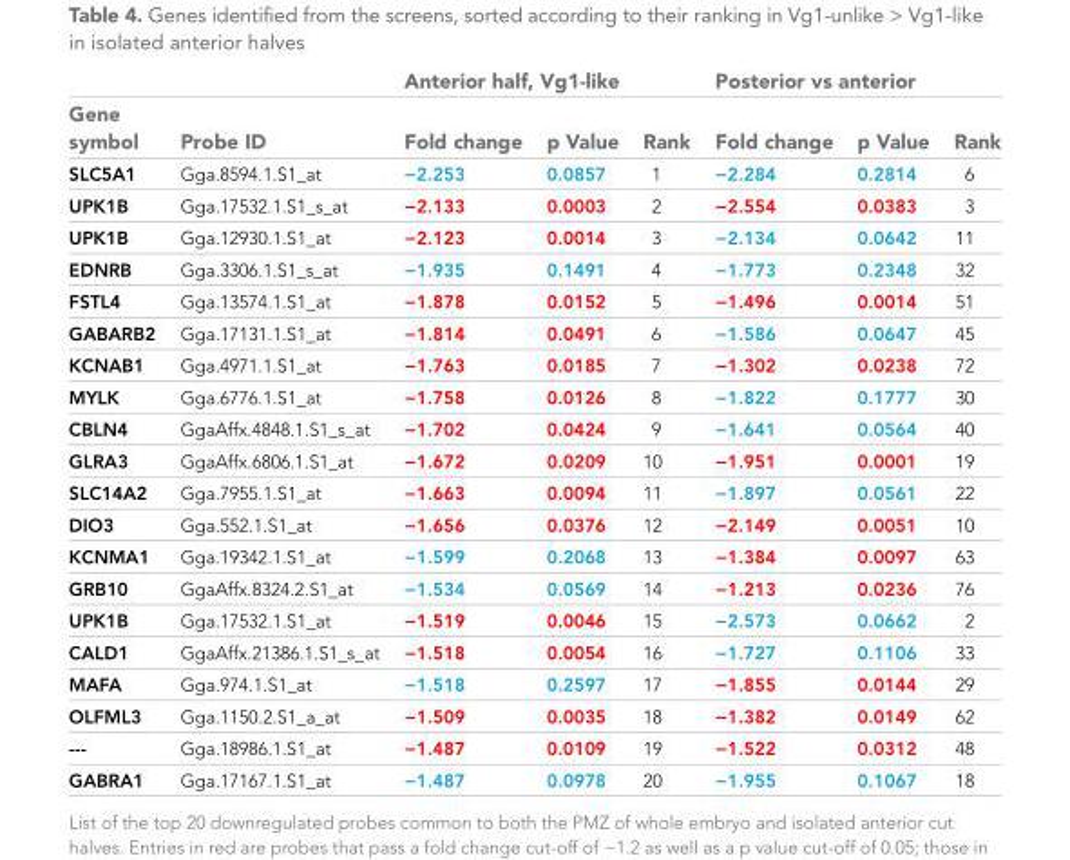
<table><thead><tr><td rowspan="2">Gene symbol</td><td rowspan="2">Probe ID</td><td colspan="3">Anterior half, Vg1-like</td><td colspan="3">Posterior vs anterior</td></tr><tr><td>Fold change</td><td>p Value</td><td>Rank</td><td>Fold change</td><td>p Value</td><td>Rank</td></tr></thead><tbody><tr><td>SLC5A1</td><td>Gga.8594.1.S1_at</td><td>−2.253</td><td>0.0857</td><td>1</td><td>−2.284</td><td>0.2814</td><td>6</td></tr><tr><td>UPK1B</td><td>Gga.17532.1.S1_s_at</td><td>−2.133</td><td>0.0003</td><td>2</td><td>−2.554</td><td>0.0383</td><td>3</td></tr><tr><td>UPK1B</td><td>Gga.12930.1.S1_at</td><td>−2.123</td><td>0.0014</td><td>3</td><td>−2.134</td><td>0.0642</td><td>11</td></tr><tr><td>EDNRB</td><td>Gga.3306.1.S1_s_at</td><td>−1.935</td><td>0.1491</td><td>4</td><td>−1.773</td><td>0.2348</td><td>32</td></tr><tr><td>FSTL4</td><td>Gga.13574.1.S1_at</td><td>−1.878</td><td>0.0152</td><td>5</td><td>−1.496</td><td>0.0014</td><td>51</td></tr><tr><td>GABARB2</td><td>Gga.17131.1.S1_at</td><td>−1.814</td><td>0.0491</td><td>6</td><td>−1.586</td><td>0.0647</td><td>45</td></tr><tr><td>KCNAB1</td><td>Gga.4971.1.S1_at</td><td>−1.763</td><td>0.0185</td><td>7</td><td>−1.302</td><td>0.0238</td><td>72</td></tr><tr><td>MYLK</td><td>Gga.6776.1.S1_at</td><td>−1.758</td><td>0.0126</td><td>8</td><td>−1.822</td><td>0.1777</td><td>30</td></tr><tr><td>CBLN4</td><td>GgaAffx.4848.1.S1_s_at</td><td>−1.702</td><td>0.0424</td><td>9</td><td>−1.641</td><td>0.0564</td><td>40</td></tr><tr><td>GLRA3</td><td>GgaAffx.6806.1.S1_at</td><td>−1.672</td><td>0.0209</td><td>10</td><td>−1.951</td><td>0.0001</td><td>19</td></tr><tr><td>SLC14A2</td><td>Gga.7955.1.S1_at</td><td>−1.663</td><td>0.0094</td><td>11</td><td>−1.897</td><td>0.0561</td><td>22</td></tr><tr><td>DIO3</td><td>Gga.552.1.S1_at</td><td>−1.656</td><td>0.0376</td><td>12</td><td>−2.149</td><td>0.0051</td><td>10</td></tr><tr><td>KCNMA1</td><td>Gga.19342.1.S1_at</td><td>−1.599</td><td>0.2068</td><td>13</td><td>−1.384</td><td>0.0097</td><td>63</td></tr><tr><td>GRB10</td><td>GgaAffx.8324.2.S1_at</td><td>−1.534</td><td>0.0569</td><td>14</td><td>−1.213</td><td>0.0236</td><td>76</td></tr><tr><td>UPK1B</td><td>Gga.17532.1.S1_at</td><td>−1.519</td><td>0.0046</td><td>15</td><td>−2.573</td><td>0.0662</td><td>2</td></tr><tr><td>CALD1</td><td>GgaAffx.21386.1.S1_s_at</td><td>−1.518</td><td>0.0054</td><td>16</td><td>−1.727</td><td>0.1106</td><td>33</td></tr><tr><td>MAFA</td><td>Gga.974.1.S1_at</td><td>−1.518</td><td>0.2597</td><td>17</td><td>−1.855</td><td>0.0144</td><td>29</td></tr><tr><td>OLFML3</td><td>Gga.1150.2.S1_a_at</td><td>−1.509</td><td>0.0035</td><td>18</td><td>−1.382</td><td>0.0149</td><td>62</td></tr><tr><td>---</td><td>Gga.18986.1.S1_at</td><td>−1.487</td><td>0.0109</td><td>19</td><td>−1.522</td><td>0.0312</td><td>48</td></tr><tr><td>GABRA1</td><td>Gga.17167.1.S1_at</td><td>−1.487</td><td>0.0978</td><td>20</td><td>−1.955</td><td>0.1067</td><td>18</td></tr></tbody></table>